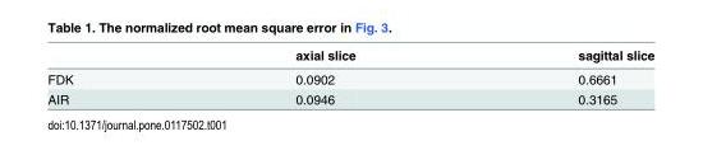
<table><thead><tr><td></td><td>axial slice</td><td>sagittal slice</td></tr></thead><tbody><tr><td>FDK</td><td>0.0902</td><td>0.6661</td></tr><tr><td>AIR</td><td>0.0946</td><td>0.3165</td></tr></tbody></table>